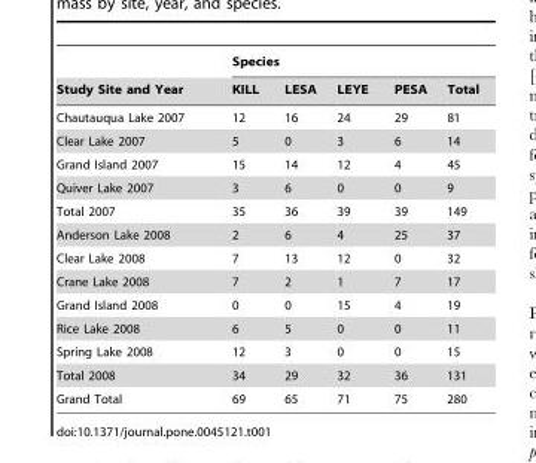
<table><thead><tr><td rowspan="2">Study Site and Year</td><td colspan="5">Species</td></tr><tr><td>KILL</td><td>LESA</td><td>LEYE</td><td>PESA</td><td>Total</td></tr></thead><tbody><tr><td>Chautauqua Lake 2007</td><td>12</td><td>16</td><td>24</td><td>29</td><td>81</td></tr><tr><td>Clear Lake 2007</td><td>5</td><td>0</td><td>3</td><td>6</td><td>14</td></tr><tr><td>Grand Island 2007</td><td>15</td><td>14</td><td>12</td><td>4</td><td>45</td></tr><tr><td>Quiver Lake 2007</td><td>3</td><td>6</td><td>0</td><td>0</td><td>9</td></tr><tr><td>Total 2007</td><td>35</td><td>36</td><td>39</td><td>39</td><td>149</td></tr><tr><td>Anderson Lake 2008</td><td>2</td><td>6</td><td>4</td><td>25</td><td>37</td></tr><tr><td>Clear Lake 2008</td><td>7</td><td>13</td><td>12</td><td>0</td><td>32</td></tr><tr><td>Crane Lake 2008</td><td>7</td><td>2</td><td>1</td><td>7</td><td>17</td></tr><tr><td>Grand Island 2008</td><td>0</td><td>0</td><td>15</td><td>4</td><td>19</td></tr><tr><td>Rice Lake 2008</td><td>6</td><td>5</td><td>0</td><td>0</td><td>11</td></tr><tr><td>Spring Lake 2008</td><td>12</td><td>3</td><td>0</td><td>0</td><td>15</td></tr><tr><td>Total 2008</td><td>34</td><td>29</td><td>32</td><td>36</td><td>131</td></tr><tr><td>Grand Total</td><td>69</td><td>65</td><td>71</td><td>75</td><td>280</td></tr></tbody></table>